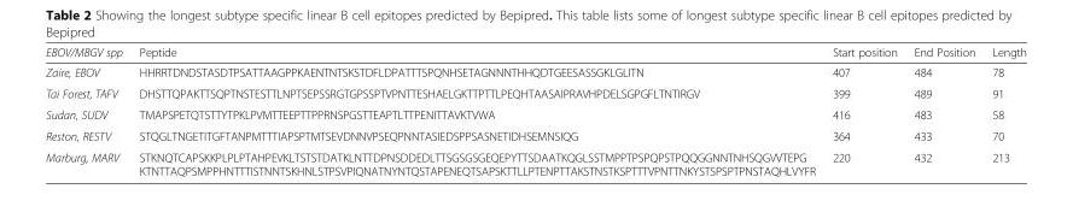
<table><thead><tr><td>EBOV/MBGV spp</td><td>Peptide</td><td>Start position</td><td>End Position</td><td>Length</td></tr></thead><tbody><tr><td>Zaire, EBOV</td><td>HHRRTDNDSTASDTPSATTAAGPPKAENTNTSKSTDFLDPATTTSPQNHSETAGNNNTHHQDTGEESASSGKLGLITN</td><td>407</td><td>484</td><td>78</td></tr><tr><td>Tai Forest, TAFV</td><td>DHSTTQPAKTTSQPTNSTESTTLNPTSEPSSRGTGPSSPTVPNTTESHAELGKTTPTTLPEQHTAASAIPRAVHPDELSGPGFLTNTIRGV</td><td>399</td><td>489</td><td>91</td></tr><tr><td>Sudan, SUDV</td><td>TMAPSPETQTSTTYTPKLPVMTTEEPTTPPRNSPGSTTEAPTLTTPENITTAVKTVWA</td><td>416</td><td>483</td><td>58</td></tr><tr><td>Reston, RESTV</td><td>STQGLTNGETITGFTANPMTTTIAPSPTMTSEVDNNVPSEQPNNTASIEDSPPSASNETIDHSEMNSIQG</td><td>364</td><td>433</td><td>70</td></tr><tr><td>Marburg, MARV</td><td>STKNQTCAPSKKPLPLPTAHPEVKLTSTSTDATKLNTTDPNSDDEDLTTSGSGSGEQEPYTTSDAATKQGLSSTMPPTPSPQPSTPQQGGNNTNHSQGVVTEPG KTNTTAQPSMPPHNTTTISTNNTSKHNLSTPSVPIQNATNYNTQSTAPENEQTSAPSKTTLLPTENPTTAKSTNSTKSPTTTVPNTTNKYSTSPSPTPNSTAQHLVYFR</td><td>220</td><td>432</td><td>213</td></tr></tbody></table>